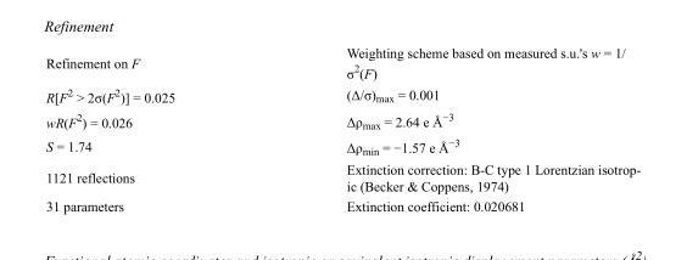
<table><tbody><tr><td>Refinement on F</td><td>Weighting scheme based on measured s.u.&#x27;s w = 1/ σ<sup>2</sup>(F)</td></tr><tr><td>R[F<sup>2</sup> &gt; 2σ(F<sup>2</sup>)] = 0.025</td><td>(Δ/σ)<sub>max</sub> = 0.001</td></tr><tr><td>wR(F<sup>2</sup>) = 0.026</td><td>Δρ<sub>max</sub> = 2.64 e Å<sup>−3</sup></td></tr><tr><td>S = 1.74</td><td>Δρ<sub>min</sub> = −1.57 e Å<sup>−3</sup></td></tr><tr><td>1121 reflections</td><td>Extinction correction: B-C type 1 Lorentzian isotrop- ic (Becker &amp; Coppens, 1974)</td></tr><tr><td>31 parameters</td><td>Extinction coefficient: 0.020681</td></tr></tbody></table>